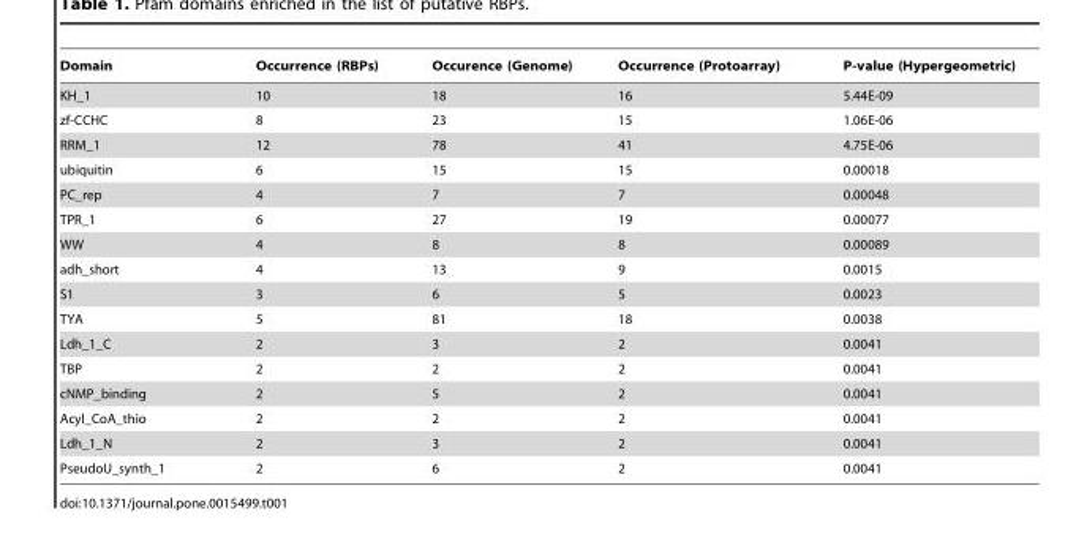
<table><thead><tr><td>Domain</td><td>Occurrence (RBPs)</td><td>Occurence (Genome)</td><td>Occurrence (Protoarray)</td><td>P-value (Hypergeometric)</td></tr></thead><tbody><tr><td>KH_1</td><td>10</td><td>18</td><td>16</td><td>5.44E-09</td></tr><tr><td>zf-CCHC</td><td>8</td><td>23</td><td>15</td><td>1.06E-06</td></tr><tr><td>RRM_1</td><td>12</td><td>78</td><td>41</td><td>4.75E-06</td></tr><tr><td>ubiquitin</td><td>6</td><td>15</td><td>15</td><td>0.00018</td></tr><tr><td>PC_rep</td><td>4</td><td>7</td><td>7</td><td>0.00048</td></tr><tr><td>TPR_1</td><td>6</td><td>27</td><td>19</td><td>0.00077</td></tr><tr><td>WW</td><td>4</td><td>8</td><td>8</td><td>0.00089</td></tr><tr><td>adh_short</td><td>4</td><td>13</td><td>9</td><td>0.0015</td></tr><tr><td>S1</td><td>3</td><td>6</td><td>5</td><td>0.0023</td></tr><tr><td>TYA</td><td>5</td><td>81</td><td>18</td><td>0.0038</td></tr><tr><td>Ldh_1_C</td><td>2</td><td>3</td><td>2</td><td>0.0041</td></tr><tr><td>TBP</td><td>2</td><td>2</td><td>2</td><td>0.0041</td></tr><tr><td>cNMP_binding</td><td>2</td><td>5</td><td>2</td><td>0.0041</td></tr><tr><td>Acyl_CoA_thio</td><td>2</td><td>2</td><td>2</td><td>0.0041</td></tr><tr><td>Ldh_1_N</td><td>2</td><td>3</td><td>2</td><td>0.0041</td></tr><tr><td>PseudoU_synth_1</td><td>2</td><td>6</td><td>2</td><td>0.0041</td></tr></tbody></table>